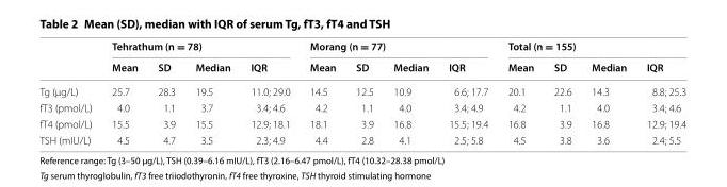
<table><thead><tr><td rowspan="2"></td><td colspan="4">Tehrathum (n = 78)</td><td colspan="4">Morang (n = 77)</td><td colspan="4">Total (n = 155)</td></tr><tr><td>Mean</td><td>SD</td><td>Median</td><td>IQR</td><td>Mean</td><td>SD</td><td>Median</td><td>IQR</td><td>Mean</td><td>SD</td><td>Median</td><td>IQR</td></tr></thead><tbody><tr><td>Tg (µg/L)</td><td>25.7</td><td>28.3</td><td>19.5</td><td>11.0; 29.0</td><td>14.5</td><td>12.5</td><td>10.9</td><td>6.6; 17.7</td><td>20.1</td><td>22.6</td><td>14.3</td><td>8.8; 25.3</td></tr><tr><td>fT3 (pmol/L)</td><td>4.0</td><td>1.1</td><td>3.7</td><td>3.4; 4.6</td><td>4.2</td><td>1.1</td><td>4.0</td><td>3.4; 4.9</td><td>4.2</td><td>1.1</td><td>4.0</td><td>3.4; 4.6</td></tr><tr><td>fT4 (pmol/L)</td><td>15.5</td><td>3.9</td><td>15.5</td><td>12.9; 18.1</td><td>18.1</td><td>3.9</td><td>16.8</td><td>15.5; 19.4</td><td>16.8</td><td>3.9</td><td>16.8</td><td>12.9; 19.4</td></tr><tr><td>TSH (mIU/L)</td><td>4.5</td><td>4.7</td><td>3.5</td><td>2.3; 4.9</td><td>4.4</td><td>2.8</td><td>4.1</td><td>2.5; 5.8</td><td>4.5</td><td>3.8</td><td>3.6</td><td>2.4; 5.5</td></tr></tbody></table>